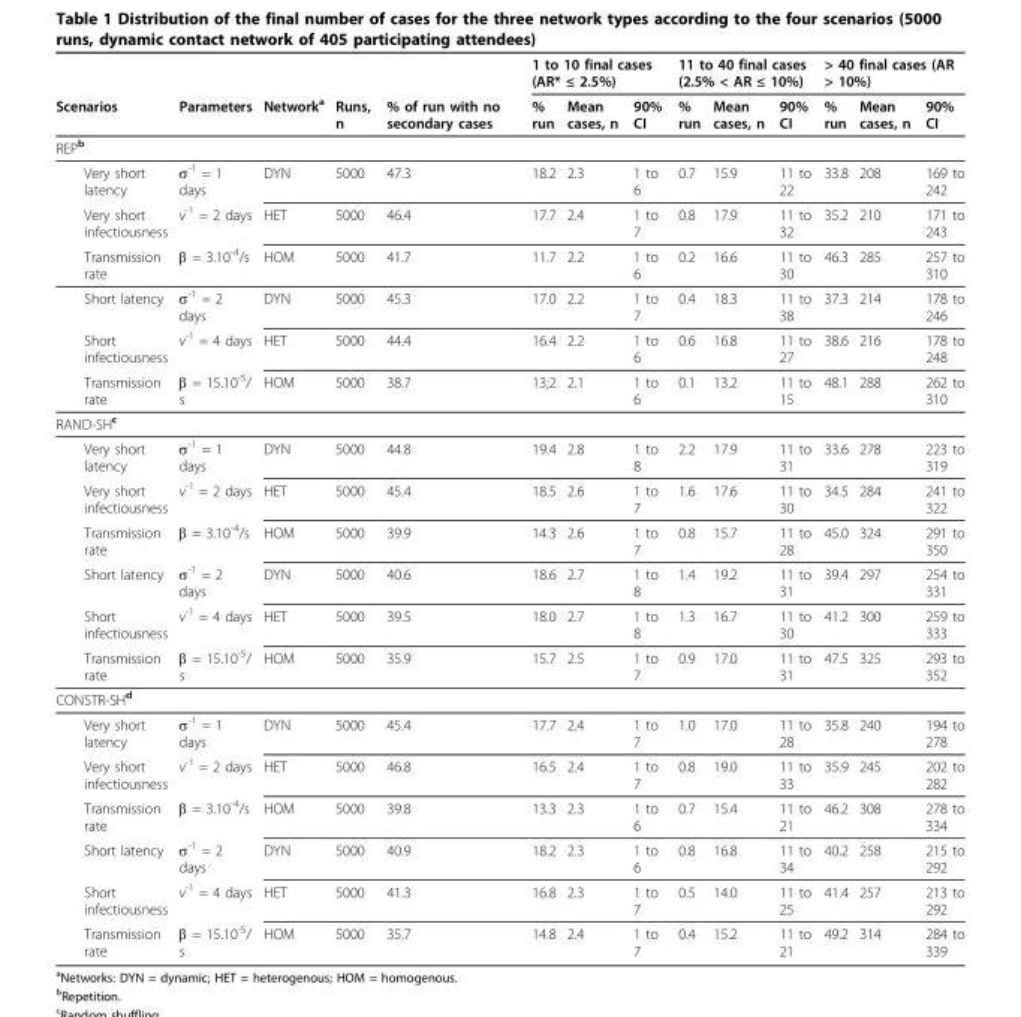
<table><thead><tr><td rowspan="2">Scenarios</td><td rowspan="2">Parameters</td><td rowspan="2">Network<sup>a</sup></td><td rowspan="2">Runs, n</td><td rowspan="2">% of run with no secondary cases</td><td colspan="3">1 to 10 final cases (AR* ≤ 2.5%)</td><td colspan="3">11 to 40 final cases (2.5% &lt; AR ≤ 10%)</td><td colspan="3">&gt; 40 final cases (AR &gt; 10%)</td></tr><tr><td>% run</td><td>Mean cases, n</td><td>90% CI</td><td>% run</td><td>Mean cases, n</td><td>90% CI</td><td>% run</td><td>Mean cases, n</td><td>90% CI</td></tr></thead><tbody><tr><td colspan="14">REP<sup>b</sup></td></tr><tr><td>Very short latency</td><td>σ<sup>-1</sup> = 1 days</td><td>DYN</td><td>5000</td><td>47.3</td><td>18.2</td><td>2.3</td><td>1 to 6</td><td>0.7</td><td>15.9</td><td>11 to 22</td><td>33.8</td><td>208</td><td>169 to 242</td></tr><tr><td>Very short infectiousness</td><td>v<sup>-1</sup> = 2 days</td><td>HET</td><td>5000</td><td>46.4</td><td>17.7</td><td>2.4</td><td>1 to 7</td><td>0.8</td><td>17.9</td><td>11 to 32</td><td>35.2</td><td>210</td><td>171 to 243</td></tr><tr><td>Transmission rate</td><td>β = 3.10<sup>-4</sup>/s</td><td>HOM</td><td>5000</td><td>41.7</td><td>11.7</td><td>2.2</td><td>1 to 6</td><td>0.2</td><td>16.6</td><td>11 to 30</td><td>46.3</td><td>285</td><td>257 to 310</td></tr><tr><td>Short latency</td><td>σ<sup>-1</sup> = 2 days</td><td>DYN</td><td>5000</td><td>45.3</td><td>17.0</td><td>2.2</td><td>1 to 7</td><td>0.4</td><td>18.3</td><td>11 to 38</td><td>37.3</td><td>214</td><td>178 to 246</td></tr><tr><td>Short infectiousness</td><td>v<sup>-1</sup> = 4 days</td><td>HET</td><td>5000</td><td>44.4</td><td>16.4</td><td>2.2</td><td>1 to 6</td><td>0.6</td><td>16.8</td><td>11 to 27</td><td>38.6</td><td>216</td><td>178 to 248</td></tr><tr><td>Transmission rate</td><td>β = 15.10<sup>-5</sup>/ s</td><td>HOM</td><td>5000</td><td>38.7</td><td>13;2</td><td>2.1</td><td>1 to 6</td><td>0.1</td><td>13.2</td><td>11 to 15</td><td>48.1</td><td>288</td><td>262 to 310</td></tr><tr><td colspan="14">RAND-SH<sup>c</sup></td></tr><tr><td>Very short latency</td><td>σ<sup>-1</sup> = 1 days</td><td>DYN</td><td>5000</td><td>44.8</td><td>19.4</td><td>2.8</td><td>1 to 8</td><td>2.2</td><td>17.9</td><td>11 to 31</td><td>33.6</td><td>278</td><td>223 to 319</td></tr><tr><td>Very short infectiousness</td><td>v<sup>-1</sup> = 2 days</td><td>HET</td><td>5000</td><td>45.4</td><td>18.5</td><td>2.6</td><td>1 to 7</td><td>1.6</td><td>17.6</td><td>11 to 30</td><td>34.5</td><td>284</td><td>241 to 322</td></tr><tr><td>Transmission rate</td><td>β = 3.10<sup>-4</sup>/s</td><td>HOM</td><td>5000</td><td>39.9</td><td>14.3</td><td>2.6</td><td>1 to 7</td><td>0.8</td><td>15.7</td><td>11 to 28</td><td>45.0</td><td>324</td><td>291 to 350</td></tr><tr><td>Short latency</td><td>σ<sup>-1</sup> = 2 days</td><td>DYN</td><td>5000</td><td>40.6</td><td>18.6</td><td>2.7</td><td>1 to 8</td><td>1.4</td><td>19.2</td><td>11 to 31</td><td>39.4</td><td>297</td><td>254 to 331</td></tr><tr><td>Short infectiousness</td><td>v<sup>-1</sup> = 4 days</td><td>HET</td><td>5000</td><td>39.5</td><td>18.0</td><td>2.7</td><td>1 to 8</td><td>1.3</td><td>16.7</td><td>11 to 30</td><td>41.2</td><td>300</td><td>259 to 333</td></tr><tr><td>Transmission rate</td><td>β = 15.10<sup>-5</sup>/ s</td><td>HOM</td><td>5000</td><td>35.9</td><td>15.7</td><td>2.5</td><td>1 to 7</td><td>0.9</td><td>17.0</td><td>11 to 31</td><td>47.5</td><td>325</td><td>293 to 352</td></tr><tr><td colspan="14">CONSTR-SH<sup>d</sup></td></tr><tr><td>Very short latency</td><td>σ<sup>-1</sup> = 1 days</td><td>DYN</td><td>5000</td><td>45.4</td><td>17.7</td><td>2.4</td><td>1 to 7</td><td>1.0</td><td>17.0</td><td>11 to 28</td><td>35.8</td><td>240</td><td>194 to 278</td></tr><tr><td>Very short infectiousness</td><td>v<sup>-1</sup> = 2 days</td><td>HET</td><td>5000</td><td>46.8</td><td>16.5</td><td>2.4</td><td>1 to 7</td><td>0.8</td><td>19.0</td><td>11 to 33</td><td>35.9</td><td>245</td><td>202 to 282</td></tr><tr><td>Transmission rate</td><td>β = 3.10<sup>-4</sup>/s</td><td>HOM</td><td>5000</td><td>39.8</td><td>13.3</td><td>2.3</td><td>1 to 6</td><td>0.7</td><td>15.4</td><td>11 to 21</td><td>46.2</td><td>308</td><td>278 to 334</td></tr><tr><td>Short latency</td><td>σ<sup>-1</sup> = 2 days</td><td>DYN</td><td>5000</td><td>40.9</td><td>18.2</td><td>2.3</td><td>1 to 6</td><td>0.8</td><td>16.8</td><td>11 to 34</td><td>40.2</td><td>258</td><td>215 to 292</td></tr><tr><td>Short infectiousness</td><td>v<sup>-1</sup> = 4 days</td><td>HET</td><td>5000</td><td>41.3</td><td>16.8</td><td>2.3</td><td>1 to 7</td><td>0.5</td><td>14.0</td><td>11 to 25</td><td>41.4</td><td>257</td><td>213 to 292</td></tr><tr><td>Transmission rate</td><td>β = 15.10<sup>-5</sup>/ s</td><td>HOM</td><td>5000</td><td>35.7</td><td>14.8</td><td>2.4</td><td>1 to 7</td><td>0.4</td><td>15.2</td><td>11 to 21</td><td>49.2</td><td>314</td><td>284 to 339</td></tr></tbody></table>